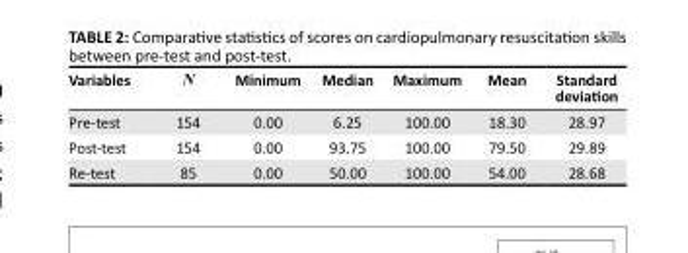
<table><thead><tr><td>Variables</td><td>N</td><td>Minimum</td><td>Median</td><td>Maximum</td><td>Mean</td><td>Standard deviation</td></tr></thead><tbody><tr><td>Pre-test</td><td>154</td><td>0.00</td><td>6.25</td><td>100.00</td><td>18.30</td><td>28.97</td></tr><tr><td>Post-test</td><td>154</td><td>0.00</td><td>93.75</td><td>100.00</td><td>79.50</td><td>29.89</td></tr><tr><td>Re-test</td><td>85</td><td>0.00</td><td>50.00</td><td>100.00</td><td>54.00</td><td>28.68</td></tr></tbody></table>